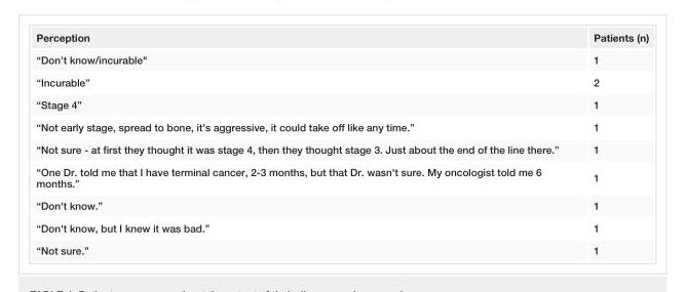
<table><tbody><tr><td>Perception</td><td>Patients (n)</td></tr><tr><td>“Don’t know/incurable&quot;</td><td>1</td></tr><tr><td>“Incurable”</td><td>2</td></tr><tr><td>“Stage 4”</td><td>1</td></tr><tr><td>“Not early stage, spread to bone, it&#x27;s aggressive, it could take off like any time.”</td><td>1</td></tr><tr><td>“Not sure - at first they thought it was stage 4, then they thought stage 3. Just about the end of the line there.”</td><td>1</td></tr><tr><td>“One Dr. told me that I have terminal cancer, 2-3 months, but that Dr. wasn&#x27;t sure. My oncologist told me 6 months.”</td><td>1</td></tr><tr><td>“Don&#x27;t know.”</td><td>1</td></tr><tr><td>“Don&#x27;t know, but I knew it was bad.”</td><td>1</td></tr><tr><td>“Not sure.”</td><td>1</td></tr></tbody></table>